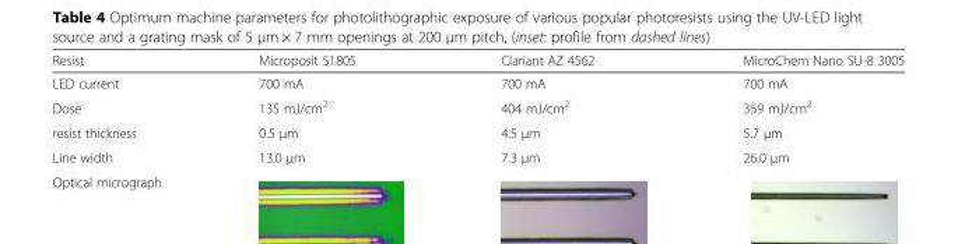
<table><thead><tr><td>Resist</td><td>Microposit S1805</td><td>Clariant AZ 4562</td><td>MicroChem Nano SU-8 3005</td></tr></thead><tbody><tr><td>LED current</td><td>700 mA</td><td>700 mA</td><td>700 mA</td></tr><tr><td>Dose</td><td>135 mJ/cm<sup>2</sup></td><td>404 mJ/cm<sup>2</sup></td><td>359 mJ/cm<sup>2</sup></td></tr><tr><td>resist thickness</td><td>0.5 μm</td><td>4.5 μm</td><td>5.7 μm</td></tr><tr><td>Line width</td><td>13.0 μm</td><td>7.3 μm</td><td>26.0 μm</td></tr><tr><td>Optical micrograph</td><td></td><td></td><td></td></tr></tbody></table>